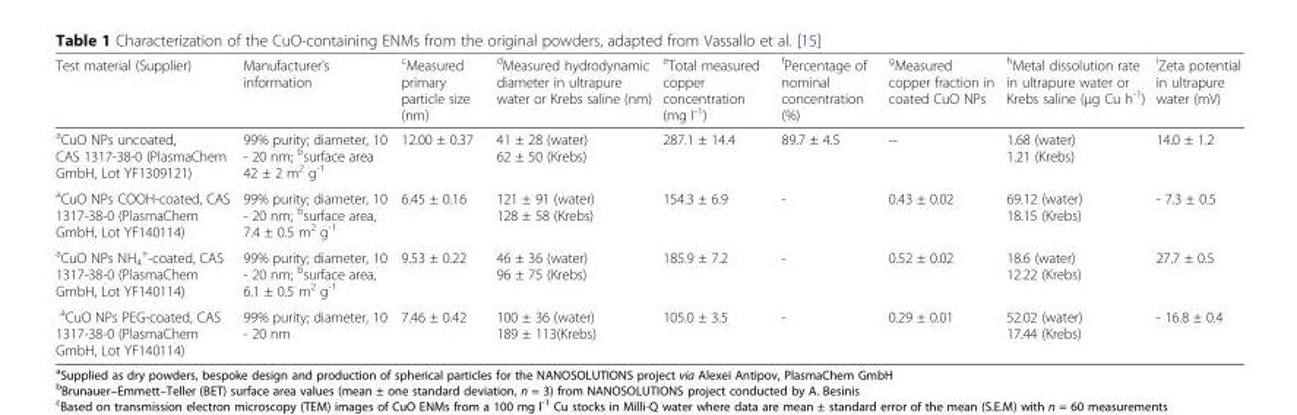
<table><thead><tr><td>Test material (Supplier)</td><td>Manufacturer’s information</td><td><sup>c</sup>Measured primary particle size (nm)</td><td><sup>d</sup>Measured hydrodynamic diameter in ultrapure water or Krebs saline (nm)</td><td><sup>e</sup>Total measured copper concentration (mg l<sup>-1</sup>)</td><td><sup>f</sup>Percentage of nominal concentration (%)</td><td><sup>g</sup>Measured copper fraction in coated CuO NPs</td><td><sup>h</sup>Metal dissolution rate in ultrapure water or Krebs saline (μg Cu h<sup>-1</sup>)</td><td><sup>i</sup>Zeta potential in ultrapure water (mV)</td></tr></thead><tbody><tr><td><sup>a</sup>CuO NPs uncoated, CAS 1317-38-0 (PlasmaChem GmbH, Lot YF1309121)</td><td>99% purity; diameter, 10 - 20 nm; <sup>b</sup>surface area 42 ± 2 m<sup>2</sup> g<sup>-1</sup></td><td>12.00 ± 0.37</td><td>41 ± 28 (water) 62 ± 50 (Krebs)</td><td>287.1 ± 14.4</td><td>89.7 ± 4.5</td><td>--</td><td>1.68 (water) 1.21 (Krebs)</td><td>14.0 ± 1.2</td></tr><tr><td><sup>a</sup>CuO NPs COOH-coated, CAS 1317-38-0 (PlasmaChem GmbH, Lot YF140114)</td><td>99% purity; diameter, 10 - 20 nm; <sup>b</sup>surface area, 7.4 ± 0.5 m<sup>2</sup> g<sup>-1</sup></td><td>6.45 ± 0.16</td><td>121 ± 91 (water) 128 ± 58 (Krebs)</td><td>154.3 ± 6.9</td><td>-</td><td>0.43 ± 0.02</td><td>69.12 (water) 18.15 (Krebs)</td><td>- 7.3 ± 0.5</td></tr><tr><td><sup>a</sup>CuO NPs NH<sub>4</sub> <sup>+</sup>-coated, CAS 1317-38-0 (PlasmaChem GmbH, Lot YF140114)</td><td>99% purity; diameter, 10 - 20 nm; <sup>b</sup>surface area, 6.1 ± 0.5 m<sup>2</sup> g<sup>-1</sup></td><td>9.53 ± 0.22</td><td>46 ± 36 (water) 96 ± 75 (Krebs)</td><td>185.9 ± 7.2</td><td>-</td><td>0.52 ± 0.02</td><td>18.6 (water) 12.22 (Krebs)</td><td>27.7 ± 0.5</td></tr><tr><td><sup>a</sup>CuO NPs PEG-coated, CAS 1317-38-0 (PlasmaChem GmbH, Lot YF140114)</td><td>99% purity; diameter, 10 - 20 nm</td><td>7.46 ± 0.42</td><td>100 ± 36 (water) 189 ± 113(Krebs)</td><td>105.0 ± 3.5</td><td>-</td><td>0.29 ± 0.01</td><td>52.02 (water) 17.44 (Krebs)</td><td>- 16.8 ± 0.4</td></tr></tbody></table>